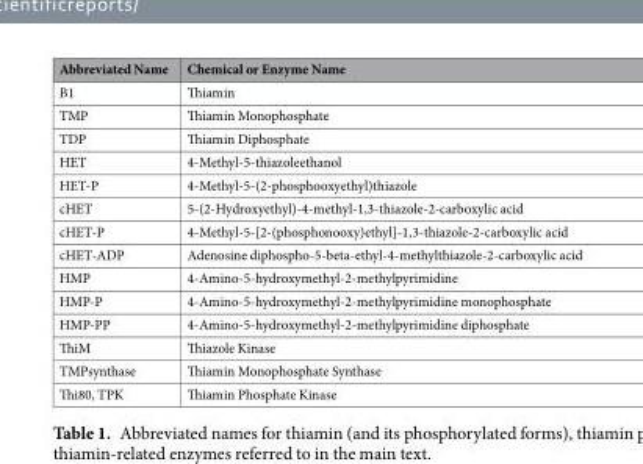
<table><thead><tr><td>Abbreviated Name</td><td>Chemical or Enzyme Name</td></tr></thead><tbody><tr><td>B1</td><td>Thiamin</td></tr><tr><td>TMP</td><td>Thiamin Monophosphate</td></tr><tr><td>TDP</td><td>Thiamin Diphosphate</td></tr><tr><td>HET</td><td>4-Methyl-5-thiazoleethanol</td></tr><tr><td>HET-P</td><td>4-Methyl-5-(2-phosphooxyethyl)thiazole</td></tr><tr><td>cHET</td><td>5-(2-Hydroxyethyl)-4-methyl-1,3-thiazole-2-carboxylic acid</td></tr><tr><td>cHET-P</td><td>4-Methyl-5-[2-(phosphonooxy)ethyl]-1,3-thiazole-2-carboxylic acid</td></tr><tr><td>cHET-ADP</td><td>Adenosine diphospho-5-beta-ethyl-4-methylthiazole-2-carboxylic acid</td></tr><tr><td>HMP</td><td>4-Amino-5-hydroxymethyl-2-methylpyrimidine</td></tr><tr><td>HMP-P</td><td>4-Amino-5-hydroxymethyl-2-methylpyrimidine monophosphate</td></tr><tr><td>HMP-PP</td><td>4-Amino-5-hydroxymethyl-2-methylpyrimidine diphosphate</td></tr><tr><td>ThiM</td><td>Thiazole Kinase</td></tr><tr><td>TMPsynthase</td><td>Thiamin Monophosphate Synthase</td></tr><tr><td>Thi80, TPK</td><td>Thiamin Phosphate Kinase</td></tr></tbody></table>